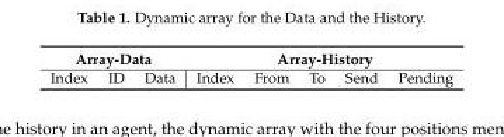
<table><thead><tr><td colspan="3">Array-Data</td><td colspan="5">Array-History</td></tr><tr><td>Index</td><td>ID</td><td>Data</td><td>Index</td><td>From</td><td>To</td><td>Send</td><td>Pending</td></tr></thead><tbody></tbody></table>